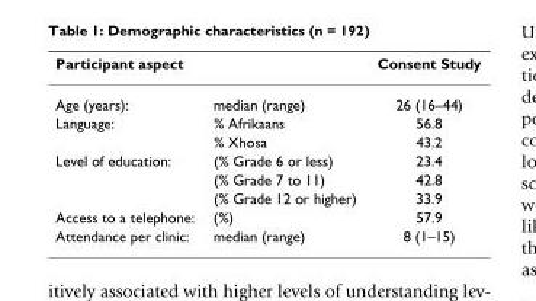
<table><thead><tr><td>Participant aspect</td><td></td><td>Consent Study</td></tr></thead><tbody><tr><td>Age (years):</td><td>median (range)</td><td>26 (16–44)</td></tr><tr><td rowspan="2">Language:</td><td>% Afrikaans</td><td>56.8</td></tr><tr><td>% Xhosa</td><td>43.2</td></tr><tr><td rowspan="3">Level of education:</td><td>(% Grade 6 or less)</td><td>23.4</td></tr><tr><td>(% Grade 7 to 11)</td><td>42.8</td></tr><tr><td>(% Grade 12 or higher)</td><td>33.9</td></tr><tr><td>Access to a telephone:</td><td>(%)</td><td>57.9</td></tr><tr><td>Attendance per clinic:</td><td>median (range)</td><td>8 (1–15)</td></tr></tbody></table>